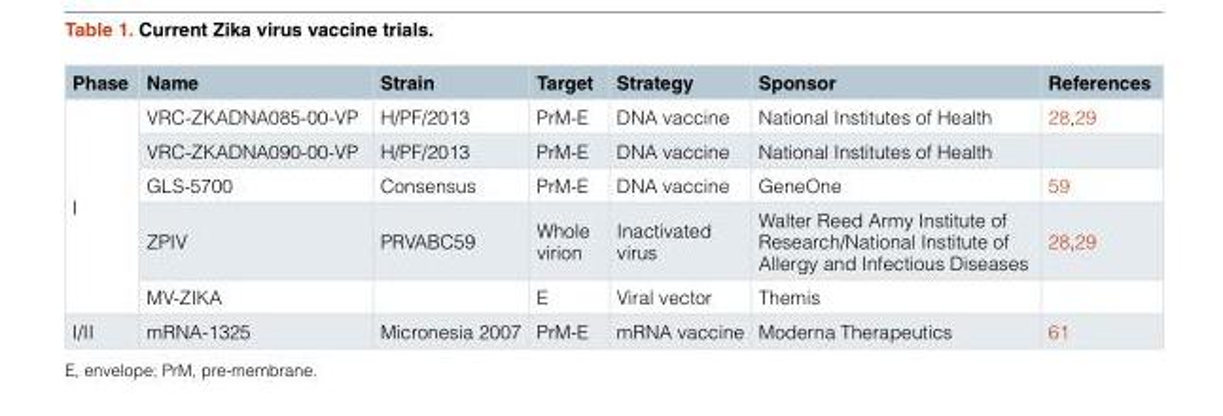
<table><thead><tr><td>Phase</td><td>Name</td><td>Strain</td><td>Target</td><td>Strategy</td><td>Sponsor</td><td>References</td></tr></thead><tbody><tr><td rowspan="5">I</td><td>VRC-ZKADNA085-00-VP</td><td>H/PF/2013</td><td>PrM-E</td><td>DNA vaccine</td><td>National Institutes of Health</td><td>28,29</td></tr><tr><td>VRC-ZKADNA090-00-VP</td><td>H/PF/2013</td><td>PrM-E</td><td>DNA vaccine</td><td>National Institutes of Health</td><td></td></tr><tr><td>GLS-5700</td><td>Consensus</td><td>PrM-E</td><td>DNA vaccine</td><td>GeneOne</td><td>59</td></tr><tr><td>ZPIV</td><td>PRVABC59</td><td>Whole virion</td><td>Inactivated virus</td><td>Walter Reed Army Institute of Research/National Institute of Allergy and Infectious Diseases</td><td>28,29</td></tr><tr><td>MV-ZIKA</td><td></td><td>E</td><td>Viral vector</td><td>Themis</td><td></td></tr><tr><td>I/II</td><td>mRNA-1325</td><td>Micronesia 2007</td><td>PrM-E</td><td>mRNA vaccine</td><td>Moderna Therapeutics</td><td>61</td></tr></tbody></table>